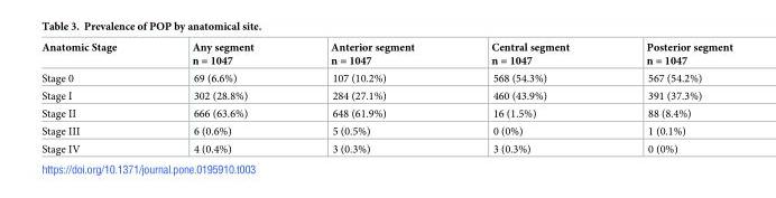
<table><thead><tr><td>Anatomic Stage</td><td>Any segment n = 1047</td><td>Anterior segment n = 1047</td><td>Central segment n = 1047</td><td>Posterior segment n = 1047</td></tr></thead><tbody><tr><td>Stage 0</td><td>69 (6.6%)</td><td>107 (10.2%)</td><td>568 (54.3%)</td><td>567 (54.2%)</td></tr><tr><td>Stage I</td><td>302 (28.8%)</td><td>284 (27.1%)</td><td>460 (43.9%)</td><td>391 (37.3%)</td></tr><tr><td>Stage II</td><td>666 (63.6%)</td><td>648 (61.9%)</td><td>16 (1.5%)</td><td>88 (8.4%)</td></tr><tr><td>Stage III</td><td>6 (0.6%)</td><td>5 (0.5%)</td><td>0 (0%)</td><td>1 (0.1%)</td></tr><tr><td>Stage IV</td><td>4 (0.4%)</td><td>3 (0.3%)</td><td>3 (0.3%)</td><td>0 (0%)</td></tr></tbody></table>